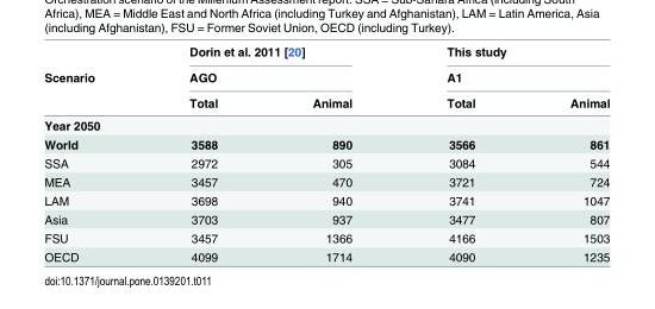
<table><thead><tr><td rowspan="3">Scenario</td><td rowspan="2" colspan="2">Dorin et al. 2011 [20] AGO</td><td rowspan="2" colspan="2">This study A1</td></tr><tr></tr><tr><td>Total</td><td>Animal</td><td>Total</td><td>Animal</td></tr></thead><tbody><tr><td colspan="5">Year 2050</td></tr><tr><td>World</td><td>3588</td><td>890</td><td>3566</td><td>861</td></tr><tr><td>SSA</td><td>2972</td><td>305</td><td>3084</td><td>544</td></tr><tr><td>MEA</td><td>3457</td><td>470</td><td>3721</td><td>724</td></tr><tr><td>LAM</td><td>3698</td><td>940</td><td>3741</td><td>1047</td></tr><tr><td>Asia</td><td>3703</td><td>937</td><td>3477</td><td>807</td></tr><tr><td>FSU</td><td>3457</td><td>1366</td><td>4166</td><td>1503</td></tr><tr><td>OECD</td><td>4099</td><td>1714</td><td>4090</td><td>1235</td></tr></tbody></table>